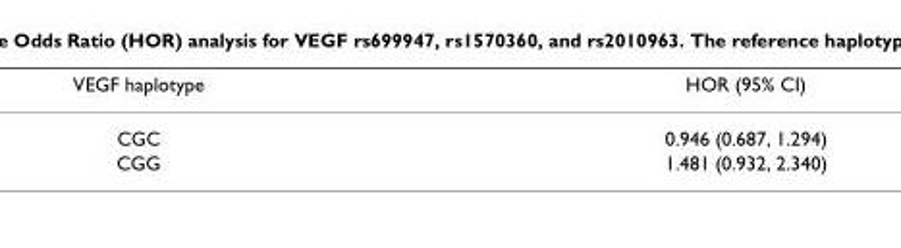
<table><thead><tr><td>VEGF haplotype</td><td>HOR (95% CI)</td></tr></thead><tbody><tr><td>CGC</td><td>0.946 (0.687, 1.294)</td></tr><tr><td>CGG</td><td>1.481 (0.932, 2.340)</td></tr></tbody></table>